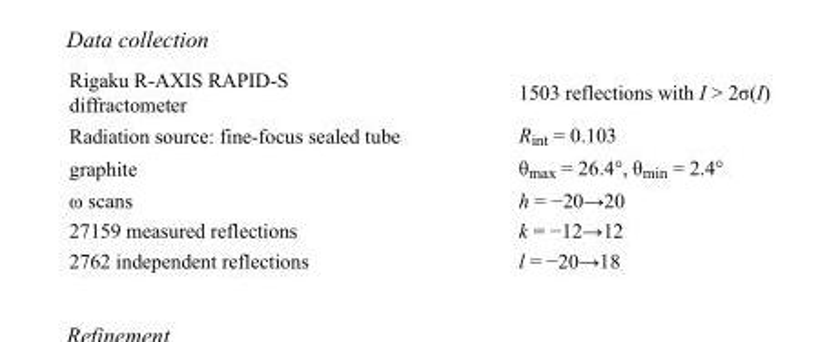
<table><tbody><tr><td>Rigaku R-AXIS RAPID-S diffractometer</td><td>1503 reflections with I &gt; 2σ(I)</td></tr><tr><td>Radiation source: fine-focus sealed tube</td><td>R<sub>int</sub> = 0.103</td></tr><tr><td>graphite</td><td>θ<sub>max</sub> = 26.4°, θ<sub>min</sub> = 2.4°</td></tr><tr><td>ω scans</td><td>h = −20→20</td></tr><tr><td>27159 measured reflections</td><td>k = −12→12</td></tr><tr><td>2762 independent reflections</td><td>l = −20→18</td></tr></tbody></table>